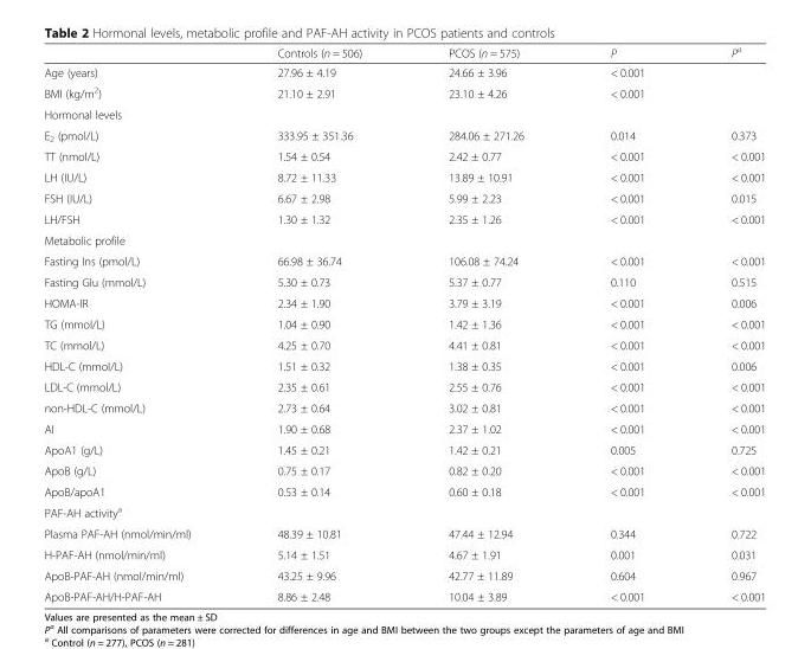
<table><thead><tr><td></td><td>Controls (n = 506)</td><td>PCOS (n = 575)</td><td>P</td><td>P<sup>a</sup></td></tr></thead><tbody><tr><td>Age (years)</td><td>27.96 ± 4.19</td><td>24.66 ± 3.96</td><td>&lt; 0.001</td><td></td></tr><tr><td>BMI (kg/m<sup>2</sup>)</td><td>21.10 ± 2.91</td><td>23.10 ± 4.26</td><td>&lt; 0.001</td><td></td></tr><tr><td colspan="5">Hormonal levels</td></tr><tr><td>E<sub>2</sub> (pmol/L)</td><td>333.95 ± 351.36</td><td>284.06 ± 271.26</td><td>0.014</td><td>0.373</td></tr><tr><td>TT (nmol/L)</td><td>1.54 ± 0.54</td><td>2.42 ± 0.77</td><td>&lt; 0.001</td><td>&lt; 0.001</td></tr><tr><td>LH (IU/L)</td><td>8.72 ± 11.33</td><td>13.89 ± 10.91</td><td>&lt; 0.001</td><td>&lt; 0.001</td></tr><tr><td>FSH (IU/L)</td><td>6.67 ± 2.98</td><td>5.99 ± 2.23</td><td>&lt; 0.001</td><td>0.015</td></tr><tr><td>LH/FSH</td><td>1.30 ± 1.32</td><td>2.35 ± 1.26</td><td>&lt; 0.001</td><td>&lt; 0.001</td></tr><tr><td colspan="5">Metabolic profile</td></tr><tr><td>Fasting Ins (pmol/L)</td><td>66.98 ± 36.74</td><td>106.08 ± 74.24</td><td>&lt; 0.001</td><td>&lt; 0.001</td></tr><tr><td>Fasting Glu (mmol/L)</td><td>5.30 ± 0.73</td><td>5.37 ± 0.77</td><td>0.110</td><td>0.515</td></tr><tr><td>HOMA-IR</td><td>2.34 ± 1.90</td><td>3.79 ± 3.19</td><td>&lt; 0.001</td><td>0.006</td></tr><tr><td>TG (mmol/L)</td><td>1.04 ± 0.90</td><td>1.42 ± 1.36</td><td>&lt; 0.001</td><td>&lt; 0.001</td></tr><tr><td>TC (mmol/L)</td><td>4.25 ± 0.70</td><td>4.41 ± 0.81</td><td>&lt; 0.001</td><td>&lt; 0.001</td></tr><tr><td>HDL-C (mmol/L)</td><td>1.51 ± 0.32</td><td>1.38 ± 0.35</td><td>&lt; 0.001</td><td>0.006</td></tr><tr><td>LDL-C (mmol/L)</td><td>2.35 ± 0.61</td><td>2.55 ± 0.76</td><td>&lt; 0.001</td><td>&lt; 0.001</td></tr><tr><td>non-HDL-C (mmol/L)</td><td>2.73 ± 0.64</td><td>3.02 ± 0.81</td><td>&lt; 0.001</td><td>&lt; 0.001</td></tr><tr><td>AI</td><td>1.90 ± 0.68</td><td>2.37 ± 1.02</td><td>&lt; 0.001</td><td>&lt; 0.001</td></tr><tr><td>ApoA1 (g/L)</td><td>1.45 ± 0.21</td><td>1.42 ± 0.21</td><td>0.005</td><td>0.725</td></tr><tr><td>ApoB (g/L)</td><td>0.75 ± 0.17</td><td>0.82 ± 0.20</td><td>&lt; 0.001</td><td>&lt; 0.001</td></tr><tr><td>ApoB/apoA1</td><td>0.53 ± 0.14</td><td>0.60 ± 0.18</td><td>&lt; 0.001</td><td>&lt; 0.001</td></tr><tr><td colspan="5">PAF-AH activity<sup>a</sup></td></tr><tr><td>Plasma PAF-AH (nmol/min/ml)</td><td>48.39 ± 10.81</td><td>47.44 ± 12.94</td><td>0.344</td><td>0.722</td></tr><tr><td>H-PAF-AH (nmol/min/ml)</td><td>5.14 ± 1.51</td><td>4.67 ± 1.91</td><td>0.001</td><td>0.031</td></tr><tr><td>ApoB-PAF-AH (nmol/min/ml)</td><td>43.25 ± 9.96</td><td>42.77 ± 11.89</td><td>0.604</td><td>0.967</td></tr><tr><td>ApoB-PAF-AH/H-PAF-AH</td><td>8.86 ± 2.48</td><td>10.04 ± 3.89</td><td>&lt; 0.001</td><td>&lt; 0.001</td></tr></tbody></table>